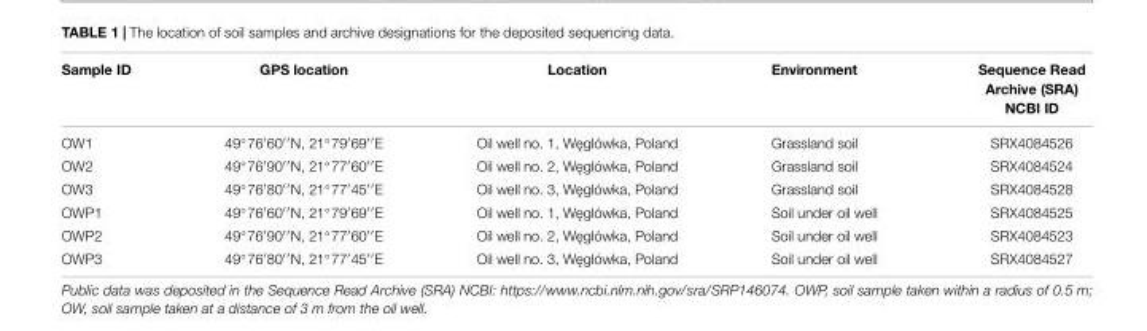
<table><thead><tr><td>Sample ID</td><td>GPS location</td><td>Location</td><td>Environment</td><td>Sequence Read Archive (SRA) NCBI ID</td></tr></thead><tbody><tr><td>OW1</td><td>49◦76′60′′N, 21◦79′69′′E</td><td>Oil well no. 1, W˛eglówka, Poland</td><td>Grassland soil</td><td>SRX4084526</td></tr><tr><td>OW2</td><td>49◦76′90′′N, 21◦77′60′′E</td><td>Oil well no. 2, W˛eglówka, Poland</td><td>Grassland soil</td><td>SRX4084524</td></tr><tr><td>OW3</td><td>49◦76′80′′N, 21◦77′45′′E</td><td>Oil well no. 3, W˛eglówka, Poland</td><td>Grassland soil</td><td>SRX4084528</td></tr><tr><td>OWP1</td><td>49◦76′60′′N, 21◦79′69′′E</td><td>Oil well no. 1, W˛eglówka, Poland</td><td>Soil under oil well</td><td>SRX4084525</td></tr><tr><td>OWP2</td><td>49◦76′90′′N, 21◦77′60′′E</td><td>Oil well no. 2, W˛eglówka, Poland</td><td>Soil under oil well</td><td>SRX4084523</td></tr><tr><td>OWP3</td><td>49◦76′80′′N, 21◦77′45′′E</td><td>Oil well no. 3, W˛eglówka, Poland</td><td>Soil under oil well</td><td>SRX4084527</td></tr></tbody></table>